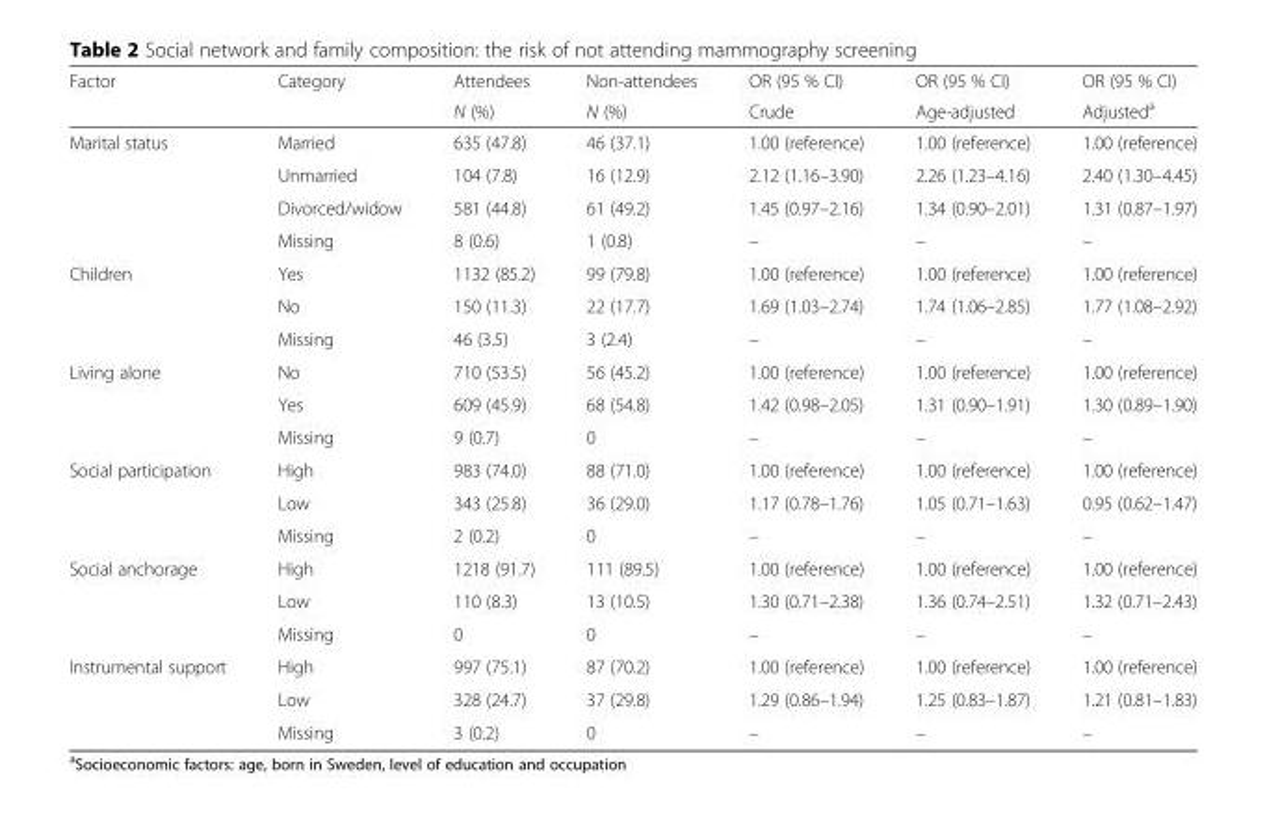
<table><thead><tr><td rowspan="2">Factor</td><td rowspan="2">Category</td><td rowspan="2">Attendees N (%)</td><td rowspan="2">Non-attendees N (%)</td><td rowspan="2">OR (95 % CI) Crude</td><td rowspan="2">OR (95 % CI) Age-adjusted</td><td rowspan="2">OR (95 % CI) Adjusted<sup>a</sup></td></tr><tr></tr></thead><tbody><tr><td rowspan="4">Marital status</td><td>Married</td><td>635 (47.8)</td><td>46 (37.1)</td><td>1.00 (reference)</td><td>1.00 (reference)</td><td>1.00 (reference)</td></tr><tr><td>Unmarried</td><td>104 (7.8)</td><td>16 (12.9)</td><td>2.12 (1.16–3.90)</td><td>2.26 (1.23–4.16)</td><td>2.40 (1.30–4.45)</td></tr><tr><td>Divorced/widow</td><td>581 (44.8)</td><td>61 (49.2)</td><td>1.45 (0.97–2.16)</td><td>1.34 (0.90–2.01)</td><td>1.31 (0.87–1.97)</td></tr><tr><td>Missing</td><td>8 (0.6)</td><td>1 (0.8)</td><td>–</td><td>–</td><td>–</td></tr><tr><td rowspan="3">Children</td><td>Yes</td><td>1132 (85.2)</td><td>99 (79.8)</td><td>1.00 (reference)</td><td>1.00 (reference)</td><td>1.00 (reference)</td></tr><tr><td>No</td><td>150 (11.3)</td><td>22 (17.7)</td><td>1.69 (1.03–2.74)</td><td>1.74 (1.06–2.85)</td><td>1.77 (1.08–2.92)</td></tr><tr><td>Missing</td><td>46 (3.5)</td><td>3 (2.4)</td><td>–</td><td>–</td><td>–</td></tr><tr><td rowspan="3">Living alone</td><td>No</td><td>710 (53.5)</td><td>56 (45.2)</td><td>1.00 (reference)</td><td>1.00 (reference)</td><td>1.00 (reference)</td></tr><tr><td>Yes</td><td>609 (45.9)</td><td>68 (54.8)</td><td>1.42 (0.98–2.05)</td><td>1.31 (0.90–1.91)</td><td>1.30 (0.89–1.90)</td></tr><tr><td>Missing</td><td>9 (0.7)</td><td>0</td><td>–</td><td>–</td><td>–</td></tr><tr><td rowspan="3">Social participation</td><td>High</td><td>983 (74.0)</td><td>88 (71.0)</td><td>1.00 (reference)</td><td>1.00 (reference)</td><td>1.00 (reference)</td></tr><tr><td>Low</td><td>343 (25.8)</td><td>36 (29.0)</td><td>1.17 (0.78–1.76)</td><td>1.05 (0.71–1.63)</td><td>0.95 (0.62–1.47)</td></tr><tr><td>Missing</td><td>2 (0.2)</td><td>0</td><td>–</td><td>–</td><td>–</td></tr><tr><td rowspan="3">Social anchorage</td><td>High</td><td>1218 (91.7)</td><td>111 (89.5)</td><td>1.00 (reference)</td><td>1.00 (reference)</td><td>1.00 (reference)</td></tr><tr><td>Low</td><td>110 (8.3)</td><td>13 (10.5)</td><td>1.30 (0.71–2.38)</td><td>1.36 (0.74–2.51)</td><td>1.32 (0.71–2.43)</td></tr><tr><td>Missing</td><td>0</td><td>0</td><td>–</td><td>–</td><td>–</td></tr><tr><td rowspan="3">Instrumental support</td><td>High</td><td>997 (75.1)</td><td>87 (70.2)</td><td>1.00 (reference)</td><td>1.00 (reference)</td><td>1.00 (reference)</td></tr><tr><td>Low</td><td>328 (24.7)</td><td>37 (29.8)</td><td>1.29 (0.86–1.94)</td><td>1.25 (0.83–1.87)</td><td>1.21 (0.81–1.83)</td></tr><tr><td>Missing</td><td>3 (0.2)</td><td>0</td><td>–</td><td>–</td><td>–</td></tr></tbody></table>